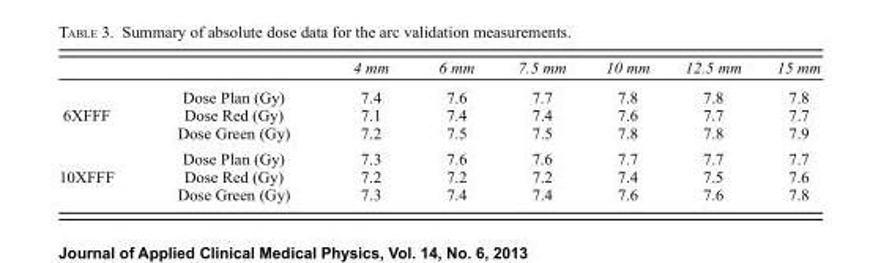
<table><thead><tr><td></td><td></td><td>4 mm</td><td>6 mm</td><td>7.5 mm</td><td>10 mm</td><td>12.5 mm</td><td>15 mm</td></tr></thead><tbody><tr><td></td><td>Dose Plan (Gy)</td><td>7.4</td><td>7.6</td><td>7.7</td><td>7.8</td><td>7.8</td><td>7.8</td></tr><tr><td rowspan="3">6XFFF</td><td>Dose Red (Gy)</td><td>7.1</td><td>7.4</td><td>7.4</td><td>7.6</td><td>7.7</td><td>7.7</td></tr><tr><td>Dose Green (Gy)</td><td>7.2</td><td>7.5</td><td>7.5</td><td>7.8</td><td>7.8</td><td>7.9</td></tr><tr><td>Dose Plan (Gy)</td><td>7.3</td><td>7.6</td><td>7.6</td><td>7.7</td><td>7.7</td><td>7.7</td></tr><tr><td rowspan="2">10XFFF</td><td>Dose Red (Gy)</td><td>7.2</td><td>7.2</td><td>7.2</td><td>7.4</td><td>7.5</td><td>7.6</td></tr><tr><td>Dose Green (Gy)</td><td>7.3</td><td>7.4</td><td>7.4</td><td>7.6</td><td>7.6</td><td>7.8</td></tr></tbody></table>